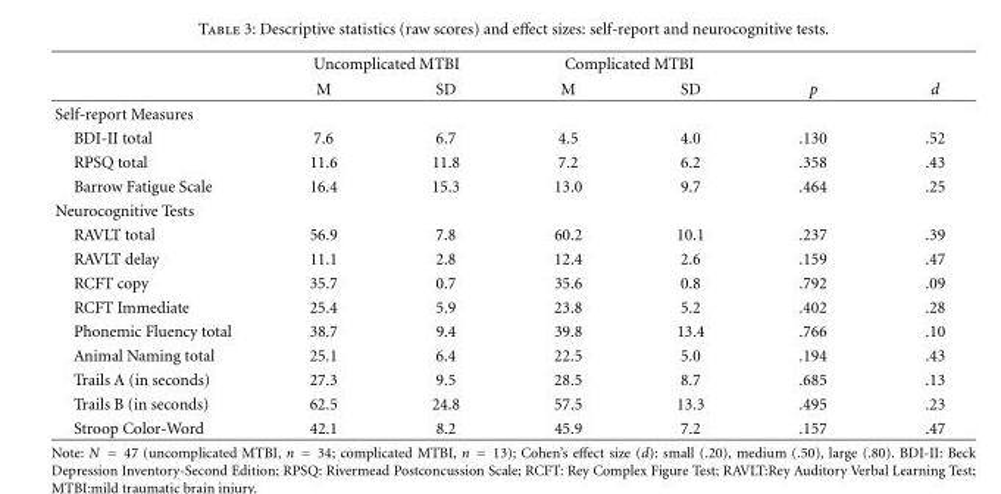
<table><thead><tr><td rowspan="2"></td><td colspan="2">Uncomplicated MTBI</td><td colspan="2">Complicated MTBI</td><td rowspan="2">p</td><td rowspan="2">d</td></tr><tr><td>M</td><td>SD</td><td>M</td><td>SD</td></tr></thead><tbody><tr><td colspan="7">Self-report Measures</td></tr><tr><td>BDI-II total</td><td>7.6</td><td>6.7</td><td>4.5</td><td>4.0</td><td>.130</td><td>.52</td></tr><tr><td>RPSQ total</td><td>11.6</td><td>11.8</td><td>7.2</td><td>6.2</td><td>.358</td><td>.43</td></tr><tr><td>Barrow Fatigue Scale</td><td>16.4</td><td>15.3</td><td>13.0</td><td>9.7</td><td>.464</td><td>.25</td></tr><tr><td colspan="7">Neurocognitive Tests</td></tr><tr><td>RAVLT total</td><td>56.9</td><td>7.8</td><td>60.2</td><td>10.1</td><td>.237</td><td>.39</td></tr><tr><td>RAVLT delay</td><td>11.1</td><td>2.8</td><td>12.4</td><td>2.6</td><td>.159</td><td>.47</td></tr><tr><td>RCFT copy</td><td>35.7</td><td>0.7</td><td>35.6</td><td>0.8</td><td>.792</td><td>.09</td></tr><tr><td>RCFT Immediate</td><td>25.4</td><td>5.9</td><td>23.8</td><td>5.2</td><td>.402</td><td>.28</td></tr><tr><td>Phonemic Fluency total</td><td>38.7</td><td>9.4</td><td>39.8</td><td>13.4</td><td>.766</td><td>.10</td></tr><tr><td>Animal Naming total</td><td>25.1</td><td>6.4</td><td>22.5</td><td>5.0</td><td>.194</td><td>.43</td></tr><tr><td>Trails A (in seconds)</td><td>27.3</td><td>9.5</td><td>28.5</td><td>8.7</td><td>.685</td><td>.13</td></tr><tr><td>Trails B (in seconds)</td><td>62.5</td><td>24.8</td><td>57.5</td><td>13.3</td><td>.495</td><td>.23</td></tr><tr><td>Stroop Color-Word</td><td>42.1</td><td>8.2</td><td>45.9</td><td>7.2</td><td>.157</td><td>.47</td></tr></tbody></table>